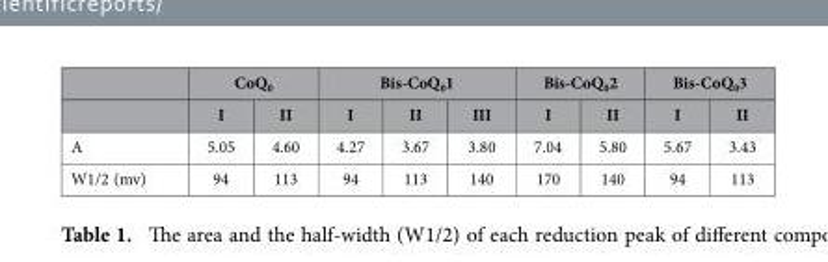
<table><thead><tr><td rowspan="2"></td><td colspan="2">CoQ<sub>0</sub></td><td colspan="3">Bis-CoQ<sub>0</sub>1</td><td colspan="2">Bis-CoQ<sub>0</sub>2</td><td colspan="2">Bis-CoQ<sub>0</sub>3</td></tr><tr><td>I</td><td>II</td><td>I</td><td>II</td><td>III</td><td>I</td><td>II</td><td>I</td><td>II</td></tr></thead><tbody><tr><td>A</td><td>5.05</td><td>4.60</td><td>4.27</td><td>3.67</td><td>3.80</td><td>7.04</td><td>5.80</td><td>5.67</td><td>3.43</td></tr><tr><td>W1/2 (mv)</td><td>94</td><td>113</td><td>94</td><td>113</td><td>140</td><td>170</td><td>140</td><td>94</td><td>113</td></tr></tbody></table>